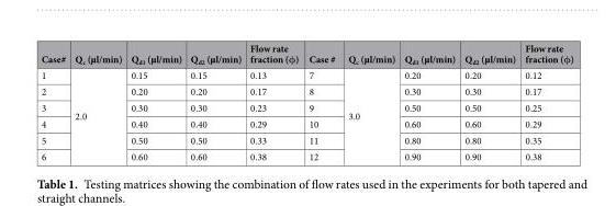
<table><thead><tr><td>Case#</td><td>Q<sub>c</sub> (µl/min)</td><td>Q<sub>d1</sub> (µl/min)</td><td>Q<sub>d2</sub> (µl/min)</td><td>Flow rate fraction (φ)</td><td>Case #</td><td>Q<sub>c</sub> (µl/min)</td><td>Q<sub>d1</sub> (µl/min)</td><td>Q<sub>d2</sub> (µl/min)</td><td>Flow rate fraction (φ)</td></tr></thead><tbody><tr><td>1</td><td rowspan="6">2.0</td><td>0.15</td><td>0.15</td><td>0.13</td><td>7</td><td rowspan="6">3.0</td><td>0.20</td><td>0.20</td><td>0.12</td></tr><tr><td>2</td><td>0.20</td><td>0.20</td><td>0.17</td><td>8</td><td>0.30</td><td>0.30</td><td>0.17</td></tr><tr><td>3</td><td>0.30</td><td>0.30</td><td>0.23</td><td>9</td><td>0.50</td><td>0.50</td><td>0.25</td></tr><tr><td>4</td><td>0.40</td><td>0.40</td><td>0.29</td><td>10</td><td>0.60</td><td>0.60</td><td>0.29</td></tr><tr><td>5</td><td>0.50</td><td>0.50</td><td>0.33</td><td>11</td><td>0.80</td><td>0.80</td><td>0.35</td></tr><tr><td>6</td><td>0.60</td><td>0.60</td><td>0.38</td><td>12</td><td>0.90</td><td>0.90</td><td>0.38</td></tr></tbody></table>